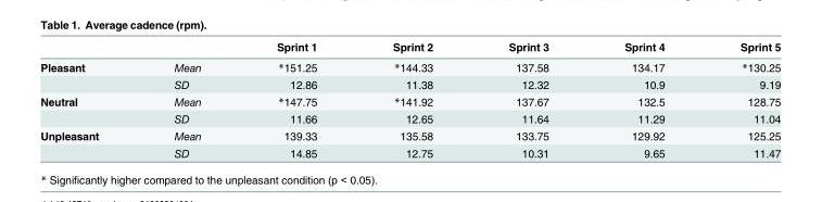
<table><thead><tr><td></td><td></td><td>Sprint 1</td><td>Sprint 2</td><td>Sprint 3</td><td>Sprint 4</td><td>Sprint 5</td></tr></thead><tbody><tr><td rowspan="2">Pleasant</td><td>Mean</td><td>*151.25</td><td>*144.33</td><td>137.58</td><td>134.17</td><td>*130.25</td></tr><tr><td>SD</td><td>12.86</td><td>11.38</td><td>12.32</td><td>10.9</td><td>9.19</td></tr><tr><td rowspan="2">Neutral</td><td>Mean</td><td>*147.75</td><td>*141.92</td><td>137.67</td><td>132.5</td><td>128.75</td></tr><tr><td>SD</td><td>11.66</td><td>12.65</td><td>11.64</td><td>11.29</td><td>11.04</td></tr><tr><td rowspan="2">Unpleasant</td><td>Mean</td><td>139.33</td><td>135.58</td><td>133.75</td><td>129.92</td><td>125.25</td></tr><tr><td>SD</td><td>14.85</td><td>12.75</td><td>10.31</td><td>9.65</td><td>11.47</td></tr></tbody></table>